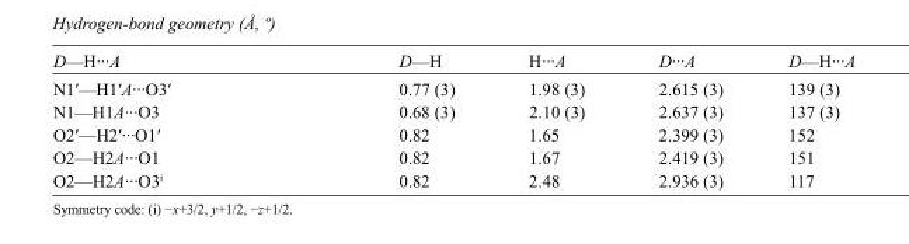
<table><tbody><tr><td>D—H···A</td><td>D—H</td><td>H···A</td><td>D···A</td><td>D—H···A</td></tr><tr><td>N1′—H1′A···O3′</td><td>0.77 (3)</td><td>1.98 (3)</td><td>2.615 (3)</td><td>139 (3)</td></tr><tr><td>N1—H1A···O3</td><td>0.68 (3)</td><td>2.10 (3)</td><td>2.637 (3)</td><td>137 (3)</td></tr><tr><td>O2′—H2′···O1′</td><td>0.82</td><td>1.65</td><td>2.399 (3)</td><td>152</td></tr><tr><td>O2—H2A···O1</td><td>0.82</td><td>1.67</td><td>2.419 (3)</td><td>151</td></tr><tr><td>O2—H2A···O3<sup>i</sup></td><td>0.82</td><td>2.48</td><td>2.936 (3)</td><td>117</td></tr></tbody></table>